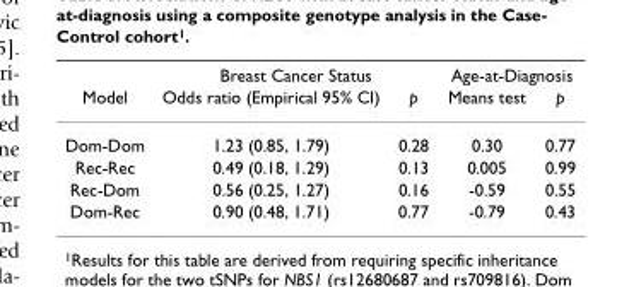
<table><thead><tr><td rowspan="2">Model</td><td colspan="2">Breast Cancer Status</td><td colspan="2">Age-at-Diagnosis</td></tr><tr><td>Odds ratio (Empirical 95% CI)</td><td>p</td><td>Means test</td><td>p</td></tr></thead><tbody><tr><td>Dom-Dom</td><td>1.23 (0.85, 1.79)</td><td>0.28</td><td>0.30</td><td>0.77</td></tr><tr><td>Rec-Rec</td><td>0.49 (0.18, 1.29)</td><td>0.13</td><td>0.005</td><td>0.99</td></tr><tr><td>Rec-Dom</td><td>0.56 (0.25, 1.27)</td><td>0.16</td><td>-0.59</td><td>0.55</td></tr><tr><td>Dom-Rec</td><td>0.90 (0.48, 1.71)</td><td>0.77</td><td>-0.79</td><td>0.43</td></tr></tbody></table>